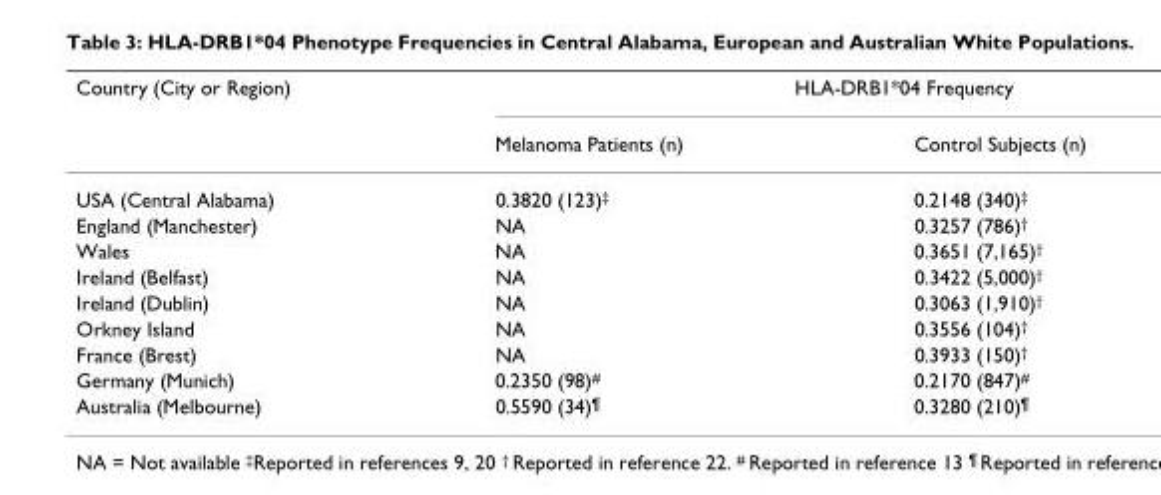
<table><thead><tr><td rowspan="2">Country (City or Region)</td><td colspan="2">HLA-DRB1*04 Frequency</td></tr><tr><td>Melanoma Patients (n)</td><td>Control Subjects (n)</td></tr></thead><tbody><tr><td>USA (Central Alabama)</td><td>0.3820 (123)‡</td><td>0.2148 (340)‡</td></tr><tr><td>England (Manchester)</td><td>NA</td><td>0.3257 (786)†</td></tr><tr><td>Wales</td><td>NA</td><td>0.3651 (7,165)†</td></tr><tr><td>Ireland (Belfast)</td><td>NA</td><td>0.3422 (5,000)†</td></tr><tr><td>Ireland (Dublin)</td><td>NA</td><td>0.3063 (1,910)†</td></tr><tr><td>Orkney Island</td><td>NA</td><td>0.3556 (104)†</td></tr><tr><td>France (Brest)</td><td>NA</td><td>0.3933 (150)†</td></tr><tr><td>Germany (Munich)</td><td>0.2350 (98)#</td><td>0.2170 (847)#</td></tr><tr><td>Australia (Melbourne)</td><td>0.5590 (34)¶</td><td>0.3280 (210)¶</td></tr></tbody></table>